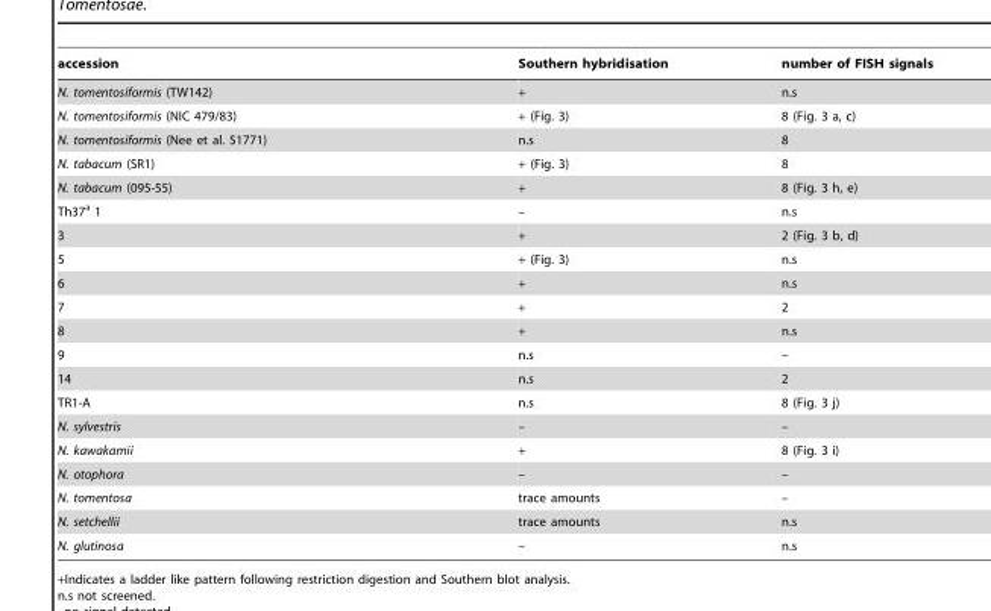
<table><thead><tr><td>accession</td><td>Southern hybridisation</td><td>number of FISH signals</td></tr></thead><tbody><tr><td>N. tomentosiformis (TW142)</td><td>+</td><td>n.s</td></tr><tr><td>N. tomentosiformis (NIC 479/83)</td><td>+ (Fig. 3)</td><td>8 (Fig. 3 a, c)</td></tr><tr><td>N. tomentosiformis (Nee et al. 51771)</td><td>n.s</td><td>8</td></tr><tr><td>N. tabacum (SR1)</td><td>+ (Fig. 3)</td><td>8</td></tr><tr><td>N. tabacum (095-55)</td><td>+</td><td>8 (Fig. 3 h, e)</td></tr><tr><td>Th37<sup>a</sup> 1</td><td>–</td><td>n.s</td></tr><tr><td>3</td><td>+</td><td>2 (Fig. 3 b, d)</td></tr><tr><td>5</td><td>+ (Fig. 3)</td><td>n.s</td></tr><tr><td>6</td><td>+</td><td>n.s</td></tr><tr><td>7</td><td>+</td><td>2</td></tr><tr><td>8</td><td>+</td><td>n.s</td></tr><tr><td>9</td><td>n.s</td><td>–</td></tr><tr><td>14</td><td>n.s</td><td>2</td></tr><tr><td>TR1-A</td><td>n.s</td><td>8 (Fig. 3 j)</td></tr><tr><td>N. sylvestris</td><td>–</td><td>–</td></tr><tr><td>N. kawakamii</td><td>+</td><td>8 (Fig. 3 i)</td></tr><tr><td>N. otophora</td><td>–</td><td>–</td></tr><tr><td>N. tomentosa</td><td>trace amounts</td><td>–</td></tr><tr><td>N. setchellii</td><td>trace amounts</td><td>n.s</td></tr><tr><td>N. glutinosa</td><td>–</td><td>n.s</td></tr></tbody></table>